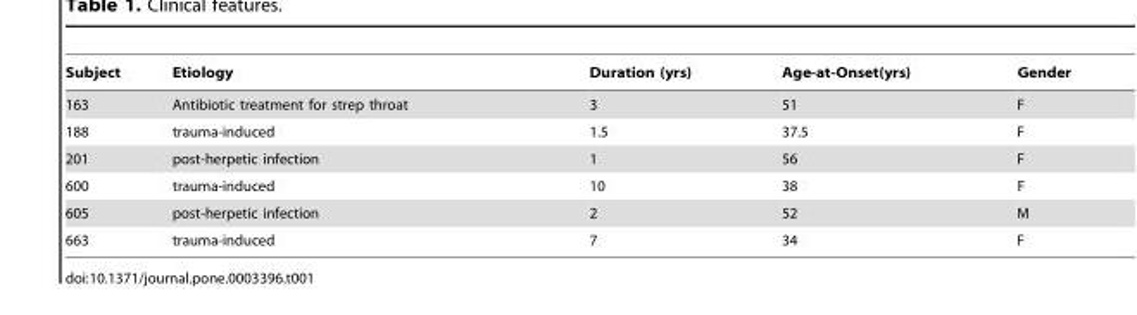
<table><thead><tr><td>Subject</td><td>Etiology</td><td>Duration (yrs)</td><td>Age-at-Onset(yrs)</td><td>Gender</td></tr></thead><tbody><tr><td>163</td><td>Antibiotic treatment for strep throat</td><td>3</td><td>51</td><td>F</td></tr><tr><td>188</td><td>trauma-induced</td><td>1.5</td><td>37.5</td><td>F</td></tr><tr><td>201</td><td>post-herpetic infection</td><td>1</td><td>56</td><td>F</td></tr><tr><td>600</td><td>trauma-induced</td><td>10</td><td>38</td><td>F</td></tr><tr><td>605</td><td>post-herpetic infection</td><td>2</td><td>52</td><td>M</td></tr><tr><td>663</td><td>trauma-induced</td><td>7</td><td>34</td><td>F</td></tr></tbody></table>